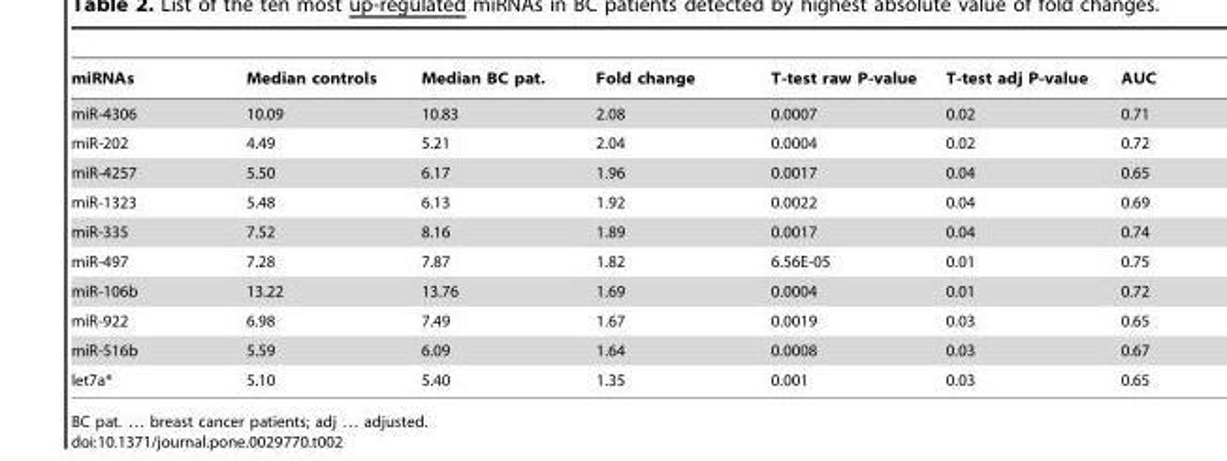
<table><thead><tr><td>miRNAs</td><td>Median controls</td><td>Median BC pat.</td><td>Fold change</td><td>T-test raw P-value</td><td>T-test adj P-value</td><td>AUC</td></tr></thead><tbody><tr><td>miR-4306</td><td>10.09</td><td>10.83</td><td>2.08</td><td>0.0007</td><td>0.02</td><td>0.71</td></tr><tr><td>miR-202</td><td>4.49</td><td>5.21</td><td>2.04</td><td>0.0004</td><td>0.02</td><td>0.72</td></tr><tr><td>miR-4257</td><td>5.50</td><td>6.17</td><td>1.96</td><td>0.0017</td><td>0.04</td><td>0.65</td></tr><tr><td>miR-1323</td><td>5.48</td><td>6.13</td><td>1.92</td><td>0.0022</td><td>0.04</td><td>0.69</td></tr><tr><td>miR-335</td><td>7.52</td><td>8.16</td><td>1.89</td><td>0.0017</td><td>0.04</td><td>0.74</td></tr><tr><td>miR-497</td><td>7.28</td><td>7.87</td><td>1.82</td><td>6.56E-05</td><td>0.01</td><td>0.75</td></tr><tr><td>miR-106b</td><td>13.22</td><td>13.76</td><td>1.69</td><td>0.0004</td><td>0.01</td><td>0.72</td></tr><tr><td>miR-922</td><td>6.98</td><td>7.49</td><td>1.67</td><td>0.0019</td><td>0.03</td><td>0.65</td></tr><tr><td>miR-516b</td><td>5.59</td><td>6.09</td><td>1.64</td><td>0.0008</td><td>0.03</td><td>0.67</td></tr><tr><td>let7a*</td><td>5.10</td><td>5.40</td><td>1.35</td><td>0.001</td><td>0.03</td><td>0.65</td></tr></tbody></table>